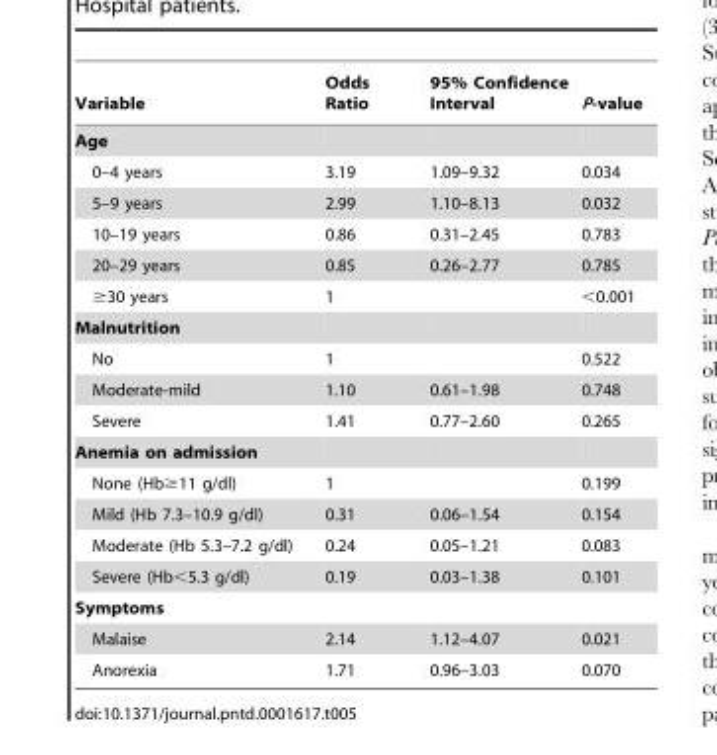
<table><thead><tr><td>Variable</td><td>Odds Ratio</td><td>95% Confidence Interval</td><td>P-value</td></tr></thead><tbody><tr><td colspan="4">Age</td></tr><tr><td>0–4 years</td><td>3.19</td><td>1.09–9.32</td><td>0.034</td></tr><tr><td>5–9 years</td><td>2.99</td><td>1.10–8.13</td><td>0.032</td></tr><tr><td>10–19 years</td><td>0.86</td><td>0.31–2.45</td><td>0.783</td></tr><tr><td>20–29 years</td><td>0.85</td><td>0.26–2.77</td><td>0.785</td></tr><tr><td>≥30 years</td><td>1</td><td></td><td>&lt;0.001</td></tr><tr><td colspan="4">Malnutrition</td></tr><tr><td>No</td><td>1</td><td></td><td>0.522</td></tr><tr><td>Moderate-mild</td><td>1.10</td><td>0.61–1.98</td><td>0.748</td></tr><tr><td>Severe</td><td>1.41</td><td>0.77–2.60</td><td>0.265</td></tr><tr><td colspan="4">Anemia on admission</td></tr><tr><td>None (Hb≥11 g/dl)</td><td>1</td><td></td><td>0.199</td></tr><tr><td>Mild (Hb 7.3–10.9 g/dl)</td><td>0.31</td><td>0.06–1.54</td><td>0.154</td></tr><tr><td>Moderate (Hb 5.3–7.2 g/dl)</td><td>0.24</td><td>0.05–1.21</td><td>0.083</td></tr><tr><td>Severe (Hb&lt;5.3 g/dl)</td><td>0.19</td><td>0.03–1.38</td><td>0.101</td></tr><tr><td colspan="4">Symptoms</td></tr><tr><td>Malaise</td><td>2.14</td><td>1.12–4.07</td><td>0.021</td></tr><tr><td>Anorexia</td><td>1.71</td><td>0.96–3.03</td><td>0.070</td></tr></tbody></table>